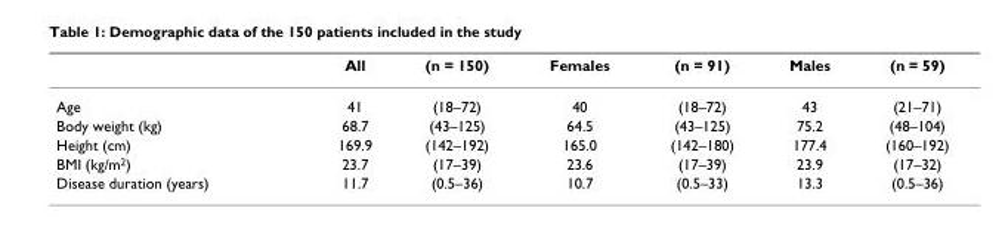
<table><thead><tr><td></td><td>All</td><td>(n = 150)</td><td>Females</td><td>(n = 91)</td><td>Males</td><td>(n = 59)</td></tr></thead><tbody><tr><td>Age</td><td>41</td><td>(18–72)</td><td>40</td><td>(18–72)</td><td>43</td><td>(21–71)</td></tr><tr><td>Body weight (kg)</td><td>68.7</td><td>(43–125)</td><td>64.5</td><td>(43–125)</td><td>75.2</td><td>(48–104)</td></tr><tr><td>Height (cm)</td><td>169.9</td><td>(142–192)</td><td>165.0</td><td>(142–180)</td><td>177.4</td><td>(160–192)</td></tr><tr><td>BMI (kg/m<sup>2</sup>)</td><td>23.7</td><td>(17–39)</td><td>23.6</td><td>(17–39)</td><td>23.9</td><td>(17–32)</td></tr><tr><td>Disease duration (years)</td><td>11.7</td><td>(0.5–36)</td><td>10.7</td><td>(0.5–33)</td><td>13.3</td><td>(0.5–36)</td></tr></tbody></table>